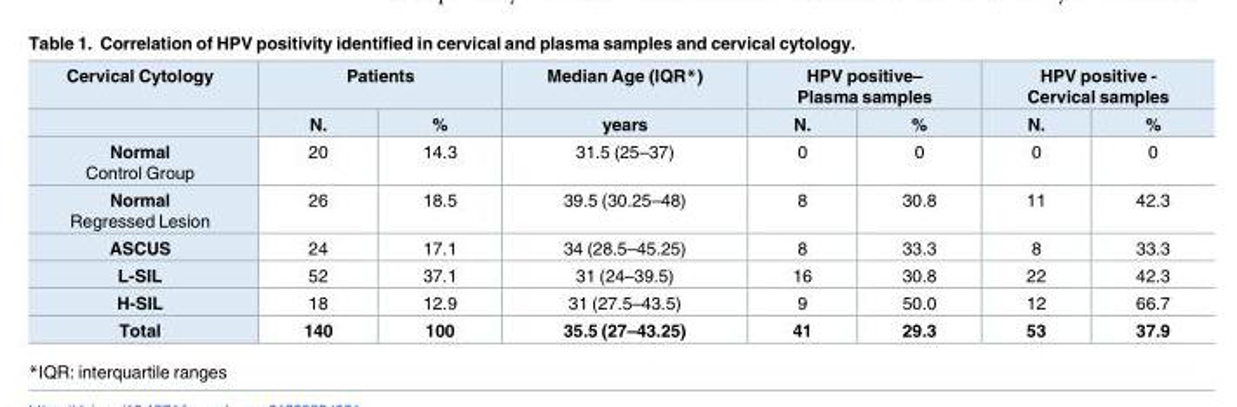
<table><thead><tr><td rowspan="2">Cervical Cytology</td><td colspan="2">Patients</td><td rowspan="2">Median Age (IQR*) years</td><td colspan="2">HPV positive– Plasma samples</td><td colspan="2">HPV positive - Cervical samples</td></tr><tr><td>N.</td><td>%</td><td>N.</td><td>%</td><td>N.</td><td>%</td></tr></thead><tbody><tr><td>Normal Control Group</td><td>20</td><td>14.3</td><td>31.5 (25–37)</td><td>0</td><td>0</td><td>0</td><td>0</td></tr><tr><td>Normal Regressed Lesion</td><td>26</td><td>18.5</td><td>39.5 (30.25–48)</td><td>8</td><td>30.8</td><td>11</td><td>42.3</td></tr><tr><td>ASCUS</td><td>24</td><td>17.1</td><td>34 (28.5–45.25)</td><td>8</td><td>33.3</td><td>8</td><td>33.3</td></tr><tr><td>L-SIL</td><td>52</td><td>37.1</td><td>31 (24–39.5)</td><td>16</td><td>30.8</td><td>22</td><td>42.3</td></tr><tr><td>H-SIL</td><td>18</td><td>12.9</td><td>31 (27.5–43.5)</td><td>9</td><td>50.0</td><td>12</td><td>66.7</td></tr><tr><td>Total</td><td>140</td><td>100</td><td>35.5 (27–43.25)</td><td>41</td><td>29.3</td><td>53</td><td>37.9</td></tr></tbody></table>